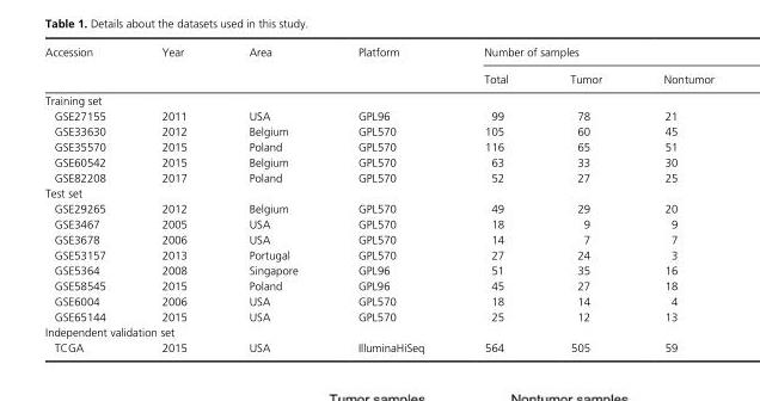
<table><thead><tr><td rowspan="2">Accession</td><td rowspan="2">Year</td><td rowspan="2">Area</td><td rowspan="2">Platform</td><td colspan="3">Number of samples</td></tr><tr><td>Total</td><td>Tumor</td><td>Nontumor</td></tr></thead><tbody><tr><td colspan="7">Training set</td></tr><tr><td>GSE27155</td><td>2011</td><td>USA</td><td>GPL96</td><td>99</td><td>78</td><td>21</td></tr><tr><td>GSE33630</td><td>2012</td><td>Belgium</td><td>GPL570</td><td>105</td><td>60</td><td>45</td></tr><tr><td>GSE35570</td><td>2015</td><td>Poland</td><td>GPL570</td><td>116</td><td>65</td><td>51</td></tr><tr><td>GSE60542</td><td>2015</td><td>Belgium</td><td>GPL570</td><td>63</td><td>33</td><td>30</td></tr><tr><td>GSE82208</td><td>2017</td><td>Poland</td><td>GPL570</td><td>52</td><td>27</td><td>25</td></tr><tr><td colspan="7">Test set</td></tr><tr><td>GSE29265</td><td>2012</td><td>Belgium</td><td>GPL570</td><td>49</td><td>29</td><td>20</td></tr><tr><td>GSE3467</td><td>2005</td><td>USA</td><td>GPL570</td><td>18</td><td>9</td><td>9</td></tr><tr><td>GSE3678</td><td>2006</td><td>USA</td><td>GPL570</td><td>14</td><td>7</td><td>7</td></tr><tr><td>GSE53157</td><td>2013</td><td>Portugal</td><td>GPL570</td><td>27</td><td>24</td><td>3</td></tr><tr><td>GSE5364</td><td>2008</td><td>Singapore</td><td>GPL96</td><td>51</td><td>35</td><td>16</td></tr><tr><td>GSE58545</td><td>2015</td><td>Poland</td><td>GPL96</td><td>45</td><td>27</td><td>18</td></tr><tr><td>GSE6004</td><td>2006</td><td>USA</td><td>GPL570</td><td>18</td><td>14</td><td>4</td></tr><tr><td>GSE65144</td><td>2015</td><td>USA</td><td>GPL570</td><td>25</td><td>12</td><td>13</td></tr><tr><td colspan="7">Independent validation set</td></tr><tr><td>TCGA</td><td>2015</td><td>USA</td><td>IlluminaHiSeq</td><td>564</td><td>505</td><td>59</td></tr></tbody></table>